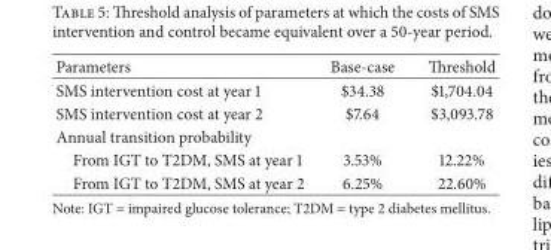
<table><thead><tr><td>Parameters</td><td>Base-case</td><td>Threshold</td></tr></thead><tbody><tr><td>SMS intervention cost at year 1</td><td>$34.38</td><td>$1,704.04</td></tr><tr><td>SMS intervention cost at year 2</td><td>$7.64</td><td>$3,093.78</td></tr><tr><td colspan="3">Annual transition probability</td></tr><tr><td>From IGT to T2DM, SMS at year 1</td><td>3.53%</td><td>12.22%</td></tr><tr><td>From IGT to T2DM, SMS at year 2</td><td>6.25%</td><td>22.60%</td></tr></tbody></table>